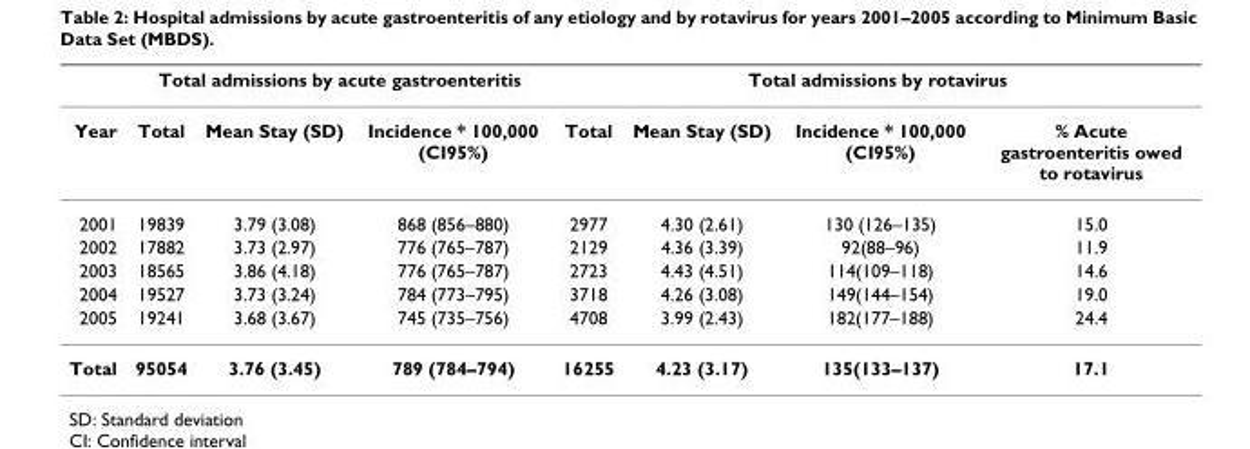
<table><thead><tr><td rowspan="2">Year</td><td colspan="3">Total admissions by acute gastroenteritis</td><td colspan="4">Total admissions by rotavirus</td></tr><tr><td>Total</td><td>Mean Stay (SD)</td><td>Incidence * 100,000 (CI95%)</td><td>Total</td><td>Mean Stay (SD)</td><td>Incidence * 100,000 (CI95%)</td><td>% Acute gastroenteritis owed to rotavirus</td></tr></thead><tbody><tr><td>2001</td><td>19839</td><td>3.79 (3.08)</td><td>868 (856–880)</td><td>2977</td><td>4.30 (2.61)</td><td>130 (126–135)</td><td>15.0</td></tr><tr><td>2002</td><td>17882</td><td>3.73 (2.97)</td><td>776 (765–787)</td><td>2129</td><td>4.36 (3.39)</td><td>92(88–96)</td><td>11.9</td></tr><tr><td>2003</td><td>18565</td><td>3.86 (4.18)</td><td>776 (765–787)</td><td>2723</td><td>4.43 (4.51)</td><td>114(109–118)</td><td>14.6</td></tr><tr><td>2004</td><td>19527</td><td>3.73 (3.24)</td><td>784 (773–795)</td><td>3718</td><td>4.26 (3.08)</td><td>149(144–154)</td><td>19.0</td></tr><tr><td>2005</td><td>19241</td><td>3.68 (3.67)</td><td>745 (735–756)</td><td>4708</td><td>3.99 (2.43)</td><td>182(177–188)</td><td>24.4</td></tr><tr><td>Total</td><td>95054</td><td>3.76 (3.45)</td><td>789 (784–794)</td><td>16255</td><td>4.23 (3.17)</td><td>135(133–137)</td><td>17.1</td></tr></tbody></table>